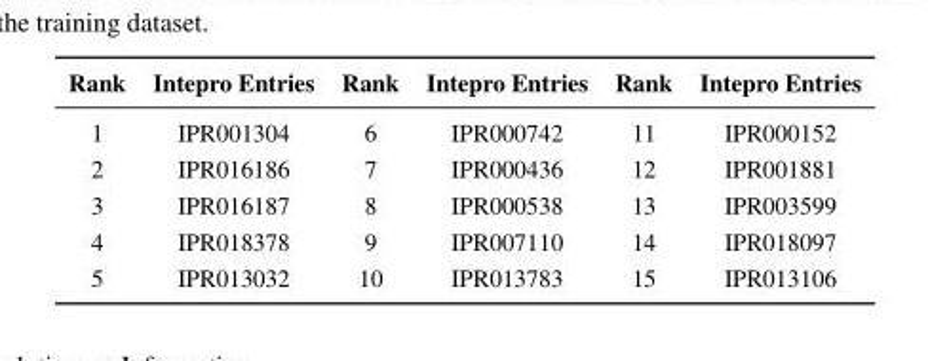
<table><thead><tr><td>Rank</td><td>Intepro Entries</td><td>Rank</td><td>Intepro Entries</td><td>Rank</td><td>Intepro Entries</td></tr></thead><tbody><tr><td>1</td><td>IPR001304</td><td>6</td><td>IPR000742</td><td>11</td><td>IPR000152</td></tr><tr><td>2</td><td>IPR016186</td><td>7</td><td>IPR000436</td><td>12</td><td>IPR001881</td></tr><tr><td>3</td><td>IPR016187</td><td>8</td><td>IPR000538</td><td>13</td><td>IPR003599</td></tr><tr><td>4</td><td>IPR018378</td><td>9</td><td>IPR007110</td><td>14</td><td>IPR018097</td></tr><tr><td>5</td><td>IPR013032</td><td>10</td><td>IPR013783</td><td>15</td><td>IPR013106</td></tr></tbody></table>